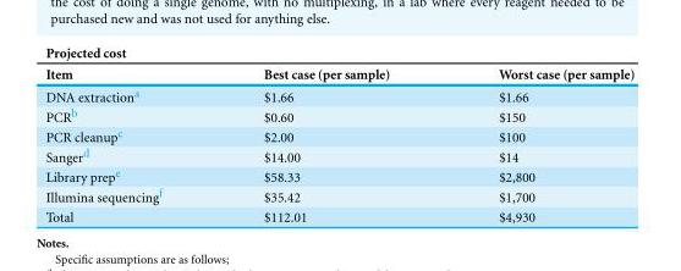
<table><thead><tr><td colspan="3">Projected cost</td></tr><tr><td>Item</td><td>Best case (per sample)</td><td>Worst case (per sample)</td></tr></thead><tbody><tr><td>DNA extraction<sup>a</sup></td><td>$1.66</td><td>$1.66</td></tr><tr><td>PCR<sup>b</sup></td><td>$0.60</td><td>$150</td></tr><tr><td>PCR cleanup<sup>c</sup></td><td>$2.00</td><td>$100</td></tr><tr><td>Sanger<sup>d</sup></td><td>$14.00</td><td>$14</td></tr><tr><td>Library prep<sup>e</sup></td><td>$58.33</td><td>$2,800</td></tr><tr><td>Illumina sequencing<sup>f</sup></td><td>$35.42</td><td>$1,700</td></tr><tr><td>Total</td><td>$112.01</td><td>$4,930</td></tr></tbody></table>